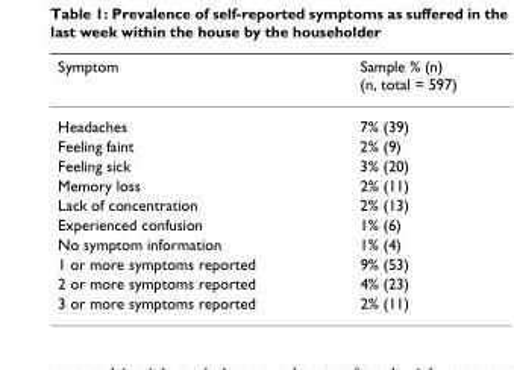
<table><thead><tr><td>Symptom</td><td>Sample % (n) (n, total = 597)</td></tr></thead><tbody><tr><td>Headaches</td><td>7% (39)</td></tr><tr><td>Feeling faint</td><td>2% (9)</td></tr><tr><td>Feeling sick</td><td>3% (20)</td></tr><tr><td>Memory loss</td><td>2% (11)</td></tr><tr><td>Lack of concentration</td><td>2% (13)</td></tr><tr><td>Experienced confusion</td><td>1% (6)</td></tr><tr><td>No symptom information</td><td>1% (4)</td></tr><tr><td>1 or more symptoms reported</td><td>9% (53)</td></tr><tr><td>2 or more symptoms reported</td><td>4% (23)</td></tr><tr><td>3 or more symptoms reported</td><td>2% (11)</td></tr></tbody></table>